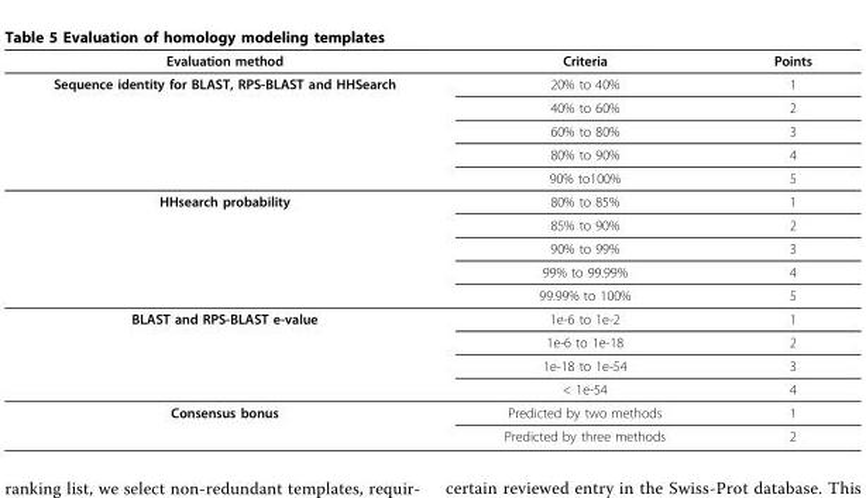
<table><thead><tr><td>Evaluation method</td><td>Criteria</td><td>Points</td></tr></thead><tbody><tr><td rowspan="5">Sequence identity for BLAST, RPS-BLAST and HHSearch</td><td>20% to 40%</td><td>1</td></tr><tr><td>40% to 60%</td><td>2</td></tr><tr><td>60% to 80%</td><td>3</td></tr><tr><td>80% to 90%</td><td>4</td></tr><tr><td>90% to100%</td><td>5</td></tr><tr><td rowspan="5">HHsearch probability</td><td>80% to 85%</td><td>1</td></tr><tr><td>85% to 90%</td><td>2</td></tr><tr><td>90% to 99%</td><td>3</td></tr><tr><td>99% to 99.99%</td><td>4</td></tr><tr><td>99.99% to 100%</td><td>5</td></tr><tr><td rowspan="4">BLAST and RPS-BLAST e-value</td><td>1e-6 to 1e-2</td><td>1</td></tr><tr><td>1e-6 to 1e-18</td><td>2</td></tr><tr><td>1e-18 to 1e-54</td><td>3</td></tr><tr><td>&lt; 1e-54</td><td>4</td></tr><tr><td rowspan="2">Consensus bonus</td><td>Predicted by two methods</td><td>1</td></tr><tr><td>Predicted by three methods</td><td>2</td></tr></tbody></table>